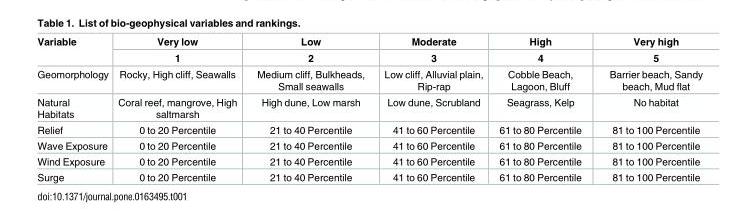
<table><thead><tr><td rowspan="2">Variable</td><td rowspan="2">Very low 1</td><td rowspan="2">Low 2</td><td rowspan="2">Moderate 3</td><td rowspan="2">High 4</td><td rowspan="2">Very high 5</td></tr><tr></tr></thead><tbody><tr><td>Geomorphology</td><td>Rocky, High cliff, Seawalls</td><td>Medium cliff, Bulkheads, Small seawalls</td><td>Low cliff, Alluvial plain, Rip-rap</td><td>Cobble Beach, Lagoon, Bluff</td><td>Barrier beach, Sandy beach, Mud flat</td></tr><tr><td>Natural Habitats</td><td>Coral reef, mangrove, High saltmarsh</td><td>High dune, Low marsh</td><td>Low dune, Scrubland</td><td>Seagrass, Kelp</td><td>No habitat</td></tr><tr><td>Relief</td><td>0 to 20 Percentile</td><td>21 to 40 Percentile</td><td>41 to 60 Percentile</td><td>61 to 80 Percentile</td><td>81 to 100 Percentile</td></tr><tr><td>Wave Exposure</td><td>0 to 20 Percentile</td><td>21 to 40 Percentile</td><td>41 to 60 Percentile</td><td>61 to 80 Percentile</td><td>81 to 100 Percentile</td></tr><tr><td>Wind Exposure</td><td>0 to 20 Percentile</td><td>21 to 40 Percentile</td><td>41 to 60 Percentile</td><td>61 to 80 Percentile</td><td>81 to 100 Percentile</td></tr><tr><td>Surge</td><td>0 to 20 Percentile</td><td>21 to 40 Percentile</td><td>41 to 60 Percentile</td><td>61 to 80 Percentile</td><td>81 to 100 Percentile</td></tr></tbody></table>